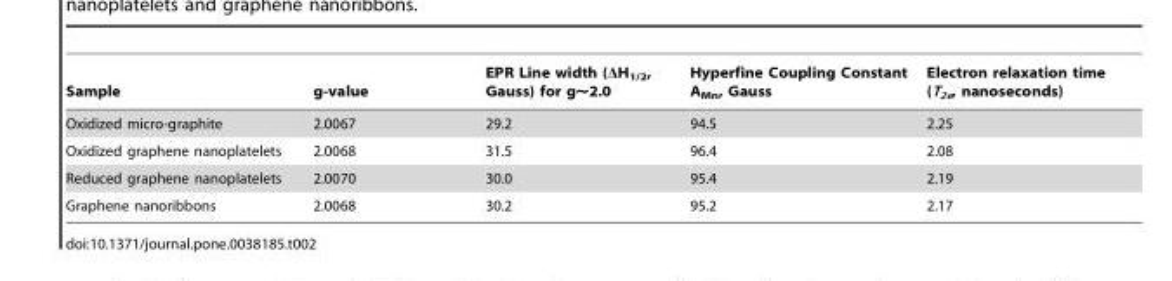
<table><thead><tr><td>Sample</td><td>g-value</td><td>EPR Line width (ΔH<sub>1/2</sub>, Gauss) for g∼2.0</td><td>Hyperfine Coupling Constant A<sub>Mn</sub>, Gauss</td><td>Electron relaxation time (T<sub>2e</sub>, nanoseconds)</td></tr></thead><tbody><tr><td>Oxidized micro-graphite</td><td>2.0067</td><td>29.2</td><td>94.5</td><td>2.25</td></tr><tr><td>Oxidized graphene nanoplatelets</td><td>2.0068</td><td>31.5</td><td>96.4</td><td>2.08</td></tr><tr><td>Reduced graphene nanoplatelets</td><td>2.0070</td><td>30.0</td><td>95.4</td><td>2.19</td></tr><tr><td>Graphene nanoribbons</td><td>2.0068</td><td>30.2</td><td>95.2</td><td>2.17</td></tr></tbody></table>